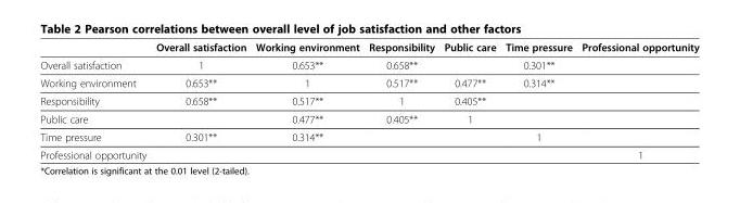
<table><thead><tr><td></td><td>Overall satisfaction</td><td>Working environment</td><td>Responsibility</td><td>Public care</td><td>Time pressure</td><td>Professional opportunity</td></tr></thead><tbody><tr><td>Overall satisfaction</td><td>1</td><td>0.653**</td><td>0.658**</td><td></td><td>0.301**</td><td></td></tr><tr><td>Working environment</td><td>0.653**</td><td>1</td><td>0.517**</td><td>0.477**</td><td>0.314**</td><td></td></tr><tr><td>Responsibility</td><td>0.658**</td><td>0.517**</td><td>1</td><td>0.405**</td><td></td><td></td></tr><tr><td>Public care</td><td></td><td>0.477**</td><td>0.405**</td><td>1</td><td></td><td></td></tr><tr><td>Time pressure</td><td>0.301**</td><td>0.314**</td><td></td><td></td><td>1</td><td></td></tr><tr><td>Professional opportunity</td><td></td><td></td><td></td><td></td><td></td><td>1</td></tr></tbody></table>